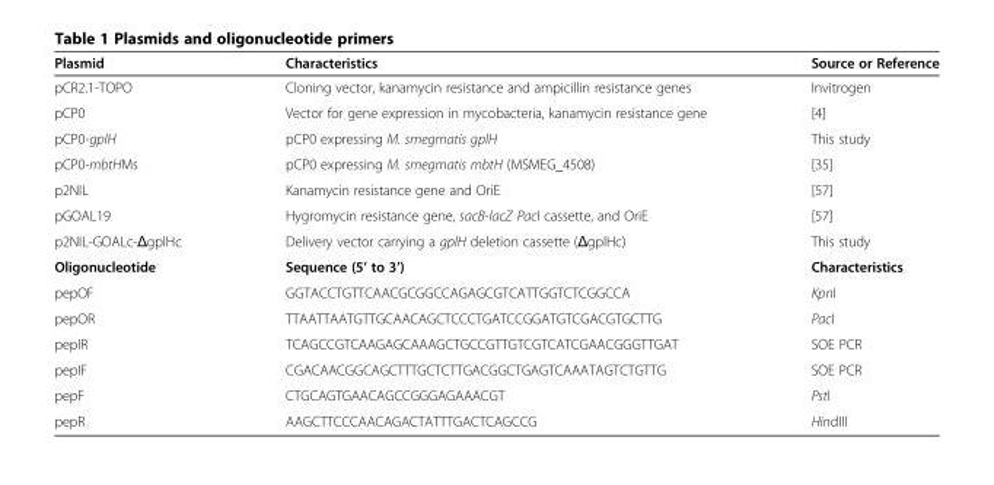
<table><thead><tr><td>Plasmid</td><td>Characteristics</td><td>Source or Reference</td></tr></thead><tbody><tr><td>pCR2.1-TOPO</td><td>Cloning vector, kanamycin resistance and ampicillin resistance genes</td><td>Invitrogen</td></tr><tr><td>pCP0</td><td>Vector for gene expression in mycobacteria, kanamycin resistance gene</td><td>[4]</td></tr><tr><td>pCP0-gplH</td><td>pCP0 expressing M. smegmatis gplH</td><td>This study</td></tr><tr><td>pCP0-mbtHMs</td><td>pCP0 expressing M. smegmatis mbtH (MSMEG_4508)</td><td>[35]</td></tr><tr><td>p2NIL</td><td>Kanamycin resistance gene and OriE</td><td>[57]</td></tr><tr><td>pGOAL19</td><td>Hygromycin resistance gene, sacB-lacZ PacI cassette, and OriE</td><td>[57]</td></tr><tr><td>p2NIL-GOALc-ΔgplHc</td><td>Delivery vector carrying a gplH deletion cassette (ΔgplHc)</td><td>This study</td></tr><tr><td>Oligonucleotide</td><td>Sequence (5’ to 3’)</td><td>Characteristics</td></tr><tr><td>pepOF</td><td>GGTACCTGTTCAACGCGGCCAGAGCGTCATTGGTCTCGGCCA</td><td>KpnI</td></tr><tr><td>pepOR</td><td>TTAATTAATGTTGCAACAGCTCCCTGATCCGGATGTCGACGTGCTTG</td><td>PacI</td></tr><tr><td>pepIR</td><td>TCAGCCGTCAAGAGCAAAGCTGCCGTTGTCGTCATCGAACGGGTTGAT</td><td>SOE PCR</td></tr><tr><td>pepIF</td><td>CGACAACGGCAGCTTTGCTCTTGACGGCTGAGTCAAATAGTCTGTTG</td><td>SOE PCR</td></tr><tr><td>pepF</td><td>CTGCAGTGAACAGCCGGGAGAAACGT</td><td>PstI</td></tr><tr><td>pepR</td><td>AAGCTTCCCAACAGACTATTTGACTCAGCCG</td><td>HindIII</td></tr></tbody></table>